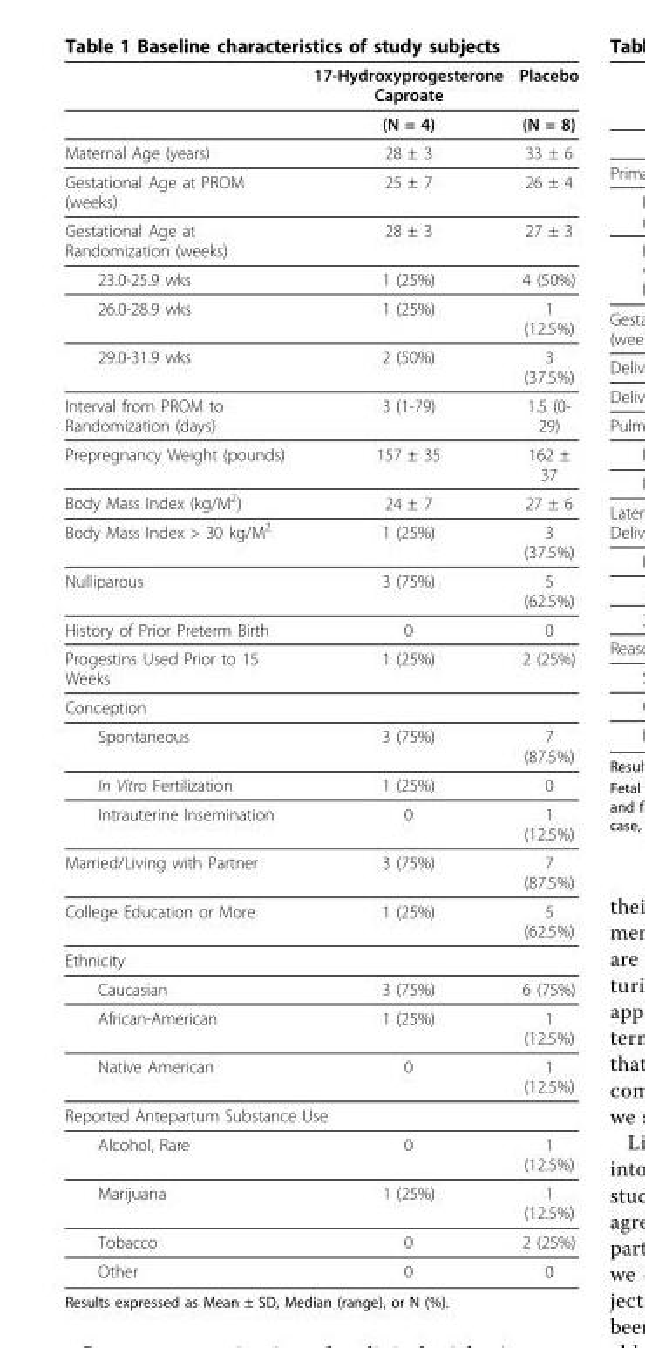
<table><thead><tr><td></td><td>17-Hydroxyprogesterone Caproate</td><td>Placebo</td></tr></thead><tbody><tr><td></td><td>(N = 4)</td><td>(N = 8)</td></tr><tr><td>Maternal Age (years)</td><td>28 ± 3</td><td>33 ± 6</td></tr><tr><td>Gestational Age at PROM (weeks)</td><td>25 ± 7</td><td>26 ± 4</td></tr><tr><td>Gestational Age at Randomization (weeks)</td><td>28 ± 3</td><td>27 ± 3</td></tr><tr><td>23.0-25.9 wks</td><td>1 (25%)</td><td>4 (50%)</td></tr><tr><td>26.0-28.9 wks</td><td>1 (25%)</td><td>1 (12.5%)</td></tr><tr><td>29.0-31.9 wks</td><td>2 (50%)</td><td>3 (37.5%)</td></tr><tr><td>Interval from PROM to Randomization (days)</td><td>3 (1-79)</td><td>1.5 (0- 29)</td></tr><tr><td>Prepregnancy Weight (pounds)</td><td>157 ± 35</td><td>162 ± 37</td></tr><tr><td>Body Mass Index (kg/M<sup>2</sup>)</td><td>24 ± 7</td><td>27 ± 6</td></tr><tr><td>Body Mass Index &gt; 30 kg/M<sup>2</sup></td><td>1 (25%)</td><td>3 (37.5%)</td></tr><tr><td>Nulliparous</td><td>3 (75%)</td><td>5 (62.5%)</td></tr><tr><td>History of Prior Preterm Birth</td><td>0</td><td>0</td></tr><tr><td>Progestins Used Prior to 15 Weeks</td><td>1 (25%)</td><td>2 (25%)</td></tr><tr><td colspan="3">Conception</td></tr><tr><td>Spontaneous</td><td>3 (75%)</td><td>7 (87.5%)</td></tr><tr><td>In Vitro Fertilization</td><td>1 (25%)</td><td>0</td></tr><tr><td>Intrauterine Insemination</td><td>0</td><td>1 (12.5%)</td></tr><tr><td>Married/Living with Partner</td><td>3 (75%)</td><td>7 (87.5%)</td></tr><tr><td>College Education or More</td><td>1 (25%)</td><td>5 (62.5%)</td></tr><tr><td colspan="3">Ethnicity</td></tr><tr><td>Caucasian</td><td>3 (75%)</td><td>6 (75%)</td></tr><tr><td>African-American</td><td>1 (25%)</td><td>1 (12.5%)</td></tr><tr><td>Native American</td><td>0</td><td>1 (12.5%)</td></tr><tr><td colspan="3">Reported Antepartum Substance Use</td></tr><tr><td>Alcohol, Rare</td><td>0</td><td>1 (12.5%)</td></tr><tr><td>Marijuana</td><td>1 (25%)</td><td>1 (12.5%)</td></tr><tr><td>Tobacco</td><td>0</td><td>2 (25%)</td></tr><tr><td>Other</td><td>0</td><td>0</td></tr></tbody></table>